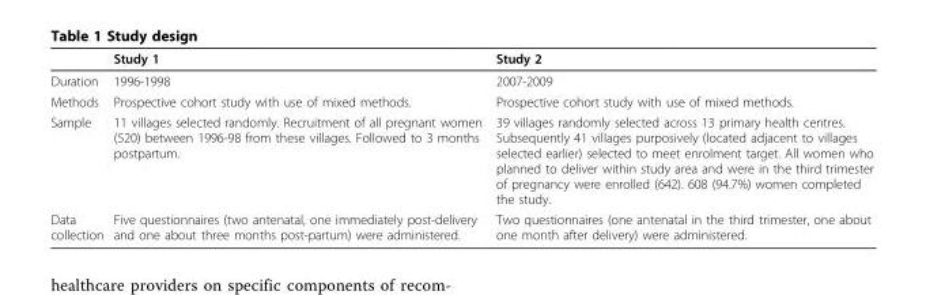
<table><thead><tr><td></td><td>Study 1</td><td>Study 2</td></tr></thead><tbody><tr><td>Duration</td><td>1996-1998</td><td>2007-2009</td></tr><tr><td>Methods</td><td>Prospective cohort study with use of mixed methods.</td><td>Prospective cohort study with use of mixed methods.</td></tr><tr><td>Sample</td><td>11 villages selected randomly. Recruitment of all pregnant women (520) between 1996-98 from these villages. Followed to 3 months postpartum.</td><td>39 villages randomly selected across 13 primary health centres. Subsequently 41 villages purposively (located adjacent to villages selected earlier) selected to meet enrolment target. All women who planned to deliver within study area and were in the third trimester of pregnancy were enrolled (642). 608 (94.7%) women completed the study.</td></tr><tr><td>Data collection</td><td>Five questionnaires (two antenatal, one immediately post-delivery and one about three months post-partum) were administered.</td><td>Two questionnaires (one antenatal in the third trimester, one about one month after delivery) were administered.</td></tr></tbody></table>